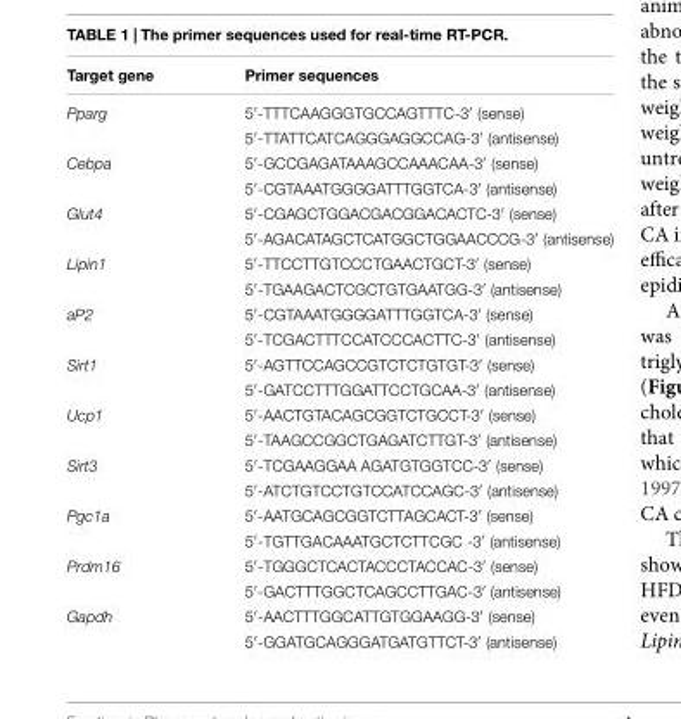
<table><thead><tr><td>Target gene</td><td>Primer sequences</td></tr></thead><tbody><tr><td rowspan="2">Pparg</td><td>5′-TTTCAAGGGTGCCAGTTTC-3′ (sense)</td></tr><tr><td>5′-TTATTCATCAGGGAGGCCAG-3′ (antisense)</td></tr><tr><td rowspan="2">Cebpa</td><td>5′-GCCGAGATAAAGCCAAACAA-3′ (sense)</td></tr><tr><td>5′-CGTAAATGGGGATTTGGTCA-3′ (antisense)</td></tr><tr><td rowspan="2">Glut4</td><td>5′-CGAGCTGGACGACGGACACTC-3′ (sense)</td></tr><tr><td>5′-AGACATAGCTCATGGCTGGAACCCG-3′ (antisense)</td></tr><tr><td rowspan="2">Lipin1</td><td>5′-TTCCTTGTCCCTGAACTGCT-3′ (sense)</td></tr><tr><td>5′-TGAAGACTCGCTGTGAATGG-3′ (antisense)</td></tr><tr><td rowspan="2">aP2</td><td>5′-CGTAAATGGGGATTTGGTCA-3′ (sense)</td></tr><tr><td>5′-TCGACTTTCCATCCCACTTC-3′ (antisense)</td></tr><tr><td rowspan="2">Sirt1</td><td>5′-AGTTCCAGCCGTCTCTGTGT-3′ (sense)</td></tr><tr><td>5′-GATCCTTTGGATTCCTGCAA-3′ (antisense)</td></tr><tr><td rowspan="2">Ucp1</td><td>5′-AACTGTACAGCGGTCTGCCT-3′ (sense)</td></tr><tr><td>5′-TAAGCCGGCTGAGATCTTGT-3′ (antisense)</td></tr><tr><td rowspan="2">Sirt3</td><td>5′-TCGAAGGAA AGATGTGGTCC-3′ (sense)</td></tr><tr><td>5′-ATCTGTCCTGTCCATCCAGC-3′ (antisense)</td></tr><tr><td rowspan="2">Pgc1a</td><td>5′-AATGCAGCGGTCTTAGCACT-3′ (sense)</td></tr><tr><td>5′-TGTTGACAAATGCTCTTCGC -3′ (antisense)</td></tr><tr><td rowspan="2">Prdm16</td><td>5′-TGGGCTCACTACCCTACCAC-3′ (sense)</td></tr><tr><td>5′-GACTTTGGCTCAGCCTTGAC-3′ (antisense)</td></tr><tr><td rowspan="2">Gapdh</td><td>5′-AACTTTGGCATTGTGGAAGG-3′ (sense)</td></tr><tr><td>5′-GGATGCAGGGATGATGTTCT-3′ (antisense)</td></tr></tbody></table>